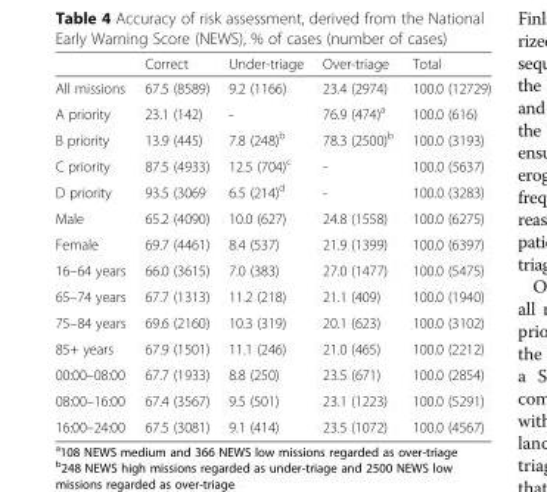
<table><thead><tr><td></td><td>Correct</td><td>Under-triage</td><td>Over-triage</td><td>Total</td></tr></thead><tbody><tr><td>All missions</td><td>67.5 (8589)</td><td>9.2 (1166)</td><td>23.4 (2974)</td><td>100.0 (12729)</td></tr><tr><td>A priority</td><td>23.1 (142)</td><td>-</td><td>76.9 (474)<sup>a</sup></td><td>100.0 (616)</td></tr><tr><td>B priority</td><td>13.9 (445)</td><td>7.8 (248)<sup>b</sup></td><td>78.3 (2500)<sup>b</sup></td><td>100.0 (3193)</td></tr><tr><td>C priority</td><td>87.5 (4933)</td><td>12.5 (704)<sup>c</sup></td><td>-</td><td>100.0 (5637)</td></tr><tr><td>D priority</td><td>93.5 (3069</td><td>6.5 (214)<sup>d</sup></td><td>-</td><td>100.0 (3283)</td></tr><tr><td>Male</td><td>65.2 (4090)</td><td>10.0 (627)</td><td>24.8 (1558)</td><td>100.0 (6275)</td></tr><tr><td>Female</td><td>69.7 (4461)</td><td>8.4 (537)</td><td>21.9 (1399)</td><td>100.0 (6397)</td></tr><tr><td>16–64 years</td><td>66.0 (3615)</td><td>7.0 (383)</td><td>27.0 (1477)</td><td>100.0 (5475)</td></tr><tr><td>65–74 years</td><td>67.7 (1313)</td><td>11.2 (218)</td><td>21.1 (409)</td><td>100.0 (1940)</td></tr><tr><td>75–84 years</td><td>69.6 (2160)</td><td>10.3 (319)</td><td>20.1 (623)</td><td>100.0 (3102)</td></tr><tr><td>85+ years</td><td>67.9 (1501)</td><td>11.1 (246)</td><td>21.0 (465)</td><td>100.0 (2212)</td></tr><tr><td>00:00–08:00</td><td>67.7 (1933)</td><td>8.8 (250)</td><td>23.5 (671)</td><td>100.0 (2854)</td></tr><tr><td>08:00–16:00</td><td>67.4 (3567)</td><td>9.5 (501)</td><td>23.1 (1223)</td><td>100.0 (5291)</td></tr><tr><td>16:00–24:00</td><td>67.5 (3081)</td><td>9.1 (414)</td><td>23.5 (1072)</td><td>100.0 (4567)</td></tr></tbody></table>